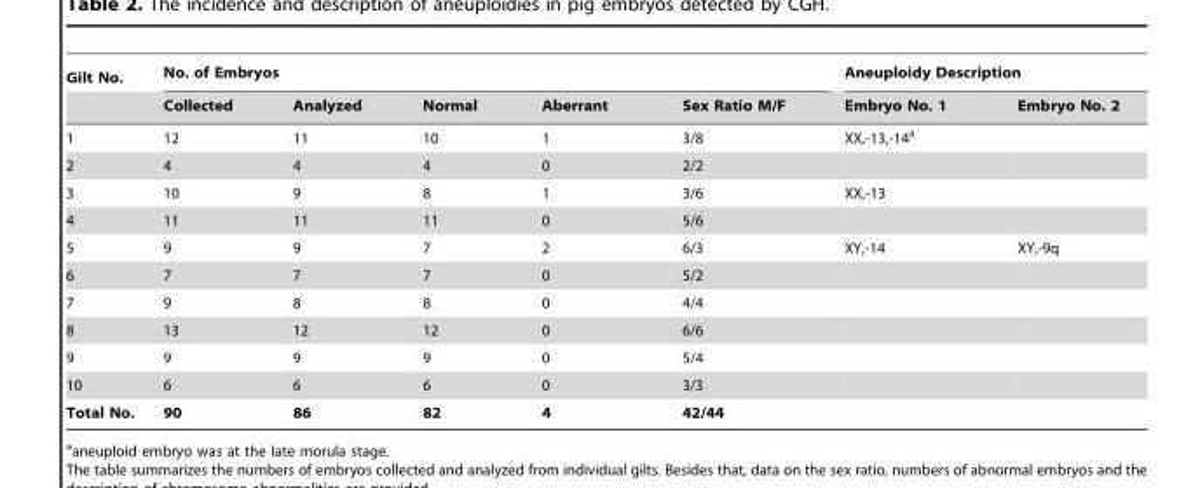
<table><thead><tr><td rowspan="2">Gilt No.</td><td colspan="5">No. of Embryos</td><td colspan="2">Aneuploidy Description</td></tr><tr><td>Collected</td><td>Analyzed</td><td>Normal</td><td>Aberrant</td><td>Sex Ratio M/F</td><td>Embryo No. 1</td><td>Embryo No. 2</td></tr></thead><tbody><tr><td>1</td><td>12</td><td>11</td><td>10</td><td>1</td><td>3/8</td><td>XX,-13,-14<sup>a</sup></td><td></td></tr><tr><td>2</td><td>4</td><td>4</td><td>4</td><td>0</td><td>2/2</td><td></td><td></td></tr><tr><td>3</td><td>10</td><td>9</td><td>8</td><td>1</td><td>3/6</td><td>XX,-13</td><td></td></tr><tr><td>4</td><td>11</td><td>11</td><td>11</td><td>0</td><td>5/6</td><td></td><td></td></tr><tr><td>5</td><td>9</td><td>9</td><td>7</td><td>2</td><td>6/3</td><td>XY,-14</td><td>XY,-9q</td></tr><tr><td>6</td><td>7</td><td>7</td><td>7</td><td>0</td><td>5/2</td><td></td><td></td></tr><tr><td>7</td><td>9</td><td>8</td><td>8</td><td>0</td><td>4/4</td><td></td><td></td></tr><tr><td>8</td><td>13</td><td>12</td><td>12</td><td>0</td><td>6/6</td><td></td><td></td></tr><tr><td>9</td><td>9</td><td>9</td><td>9</td><td>0</td><td>5/4</td><td></td><td></td></tr><tr><td>10</td><td>6</td><td>6</td><td>6</td><td>0</td><td>3/3</td><td></td><td></td></tr><tr><td>Total No.</td><td>90</td><td>86</td><td>82</td><td>4</td><td>42/44</td><td></td><td></td></tr></tbody></table>